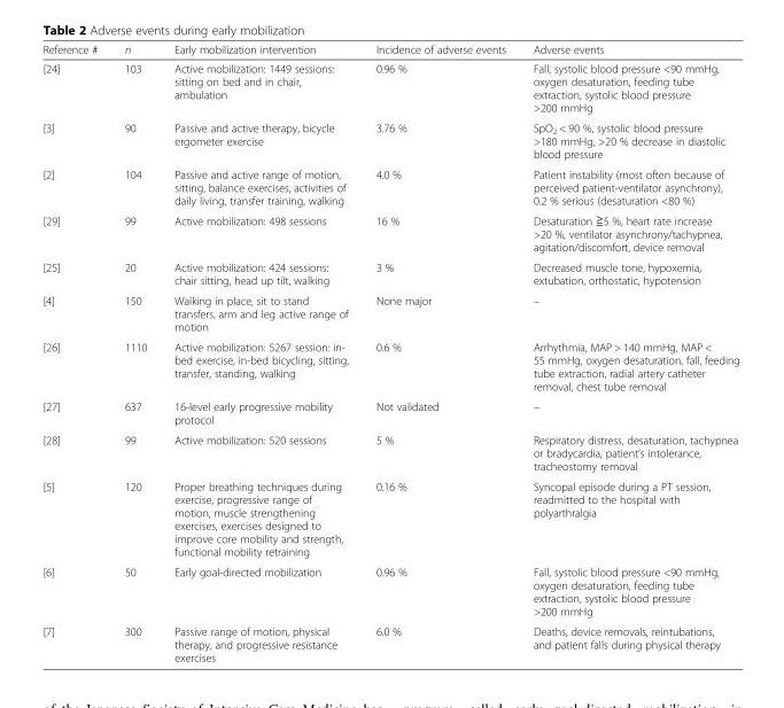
<table><thead><tr><td>Reference #</td><td>n</td><td>Early mobilization intervention</td><td>Incidence of adverse events</td><td>Adverse events</td></tr></thead><tbody><tr><td>[24]</td><td>103</td><td>Active mobilization: 1449 sessions: sitting on bed and in chair, ambulation</td><td>0.96 %</td><td>Fall, systolic blood pressure &lt;90 mmHg, oxygen desaturation, feeding tube extraction, systolic blood pressure &gt;200 mmHg</td></tr><tr><td>[3]</td><td>90</td><td>Passive and active therapy, bicycle ergometer exercise</td><td>3.76 %</td><td>SpO<sub>2</sub> &lt; 90 %, systolic blood pressure &gt;180 mmHg, &gt;20 % decrease in diastolic blood pressure</td></tr><tr><td>[2]</td><td>104</td><td>Passive and active range of motion, sitting, balance exercises, activities of daily living, transfer training, walking</td><td>4.0 %</td><td>Patient instability (most often because of perceived patient-ventilator asynchrony), 0.2 % serious (desaturation &lt;80 %)</td></tr><tr><td>[29]</td><td>99</td><td>Active mobilization: 498 sessions</td><td>16 %</td><td>Desaturation ≧5 %, heart rate increase &gt;20 %, ventilator asynchrony/tachypnea, agitation/discomfort, device removal</td></tr><tr><td>[25]</td><td>20</td><td>Active mobilization: 424 sessions: chair sitting, head up tilt, walking</td><td>3 %</td><td>Decreased muscle tone, hypoxemia, extubation, orthostatic, hypotension</td></tr><tr><td>[4]</td><td>150</td><td>Walking in place, sit to stand transfers, arm and leg active range of motion</td><td>None major</td><td>–</td></tr><tr><td>[26]</td><td>1110</td><td>Active mobilization: 5267 session: in- bed exercise, in-bed bicycling, sitting, transfer, standing, walking</td><td>0.6 %</td><td>Arrhythmia, MAP &gt; 140 mmHg, MAP &lt; 55 mmHg, oxygen desaturation, fall, feeding tube extraction, radial artery catheter removal, chest tube removal</td></tr><tr><td>[27]</td><td>637</td><td>16-level early progressive mobility protocol</td><td>Not validated</td><td>–</td></tr><tr><td>[28]</td><td>99</td><td>Active mobilization: 520 sessions</td><td>5 %</td><td>Respiratory distress, desaturation, tachypnea or bradycardia, patient’s intolerance, tracheostomy removal</td></tr><tr><td>[5]</td><td>120</td><td>Proper breathing techniques during exercise, progressive range of motion, muscle strengthening exercises, exercises designed to improve core mobility and strength, functional mobility retraining</td><td>0.16 %</td><td>Syncopal episode during a PT session, readmitted to the hospital with polyarthralgia</td></tr><tr><td>[6]</td><td>50</td><td>Early goal-directed mobilization</td><td>0.96 %</td><td>Fall, systolic blood pressure &lt;90 mmHg, oxygen desaturation, feeding tube extraction, systolic blood pressure &gt;200 mmHg</td></tr><tr><td>[7]</td><td>300</td><td>Passive range of motion, physical therapy, and progressive resistance exercises</td><td>6.0 %</td><td>Deaths, device removals, reintubations, and patient falls during physical therapy</td></tr></tbody></table>